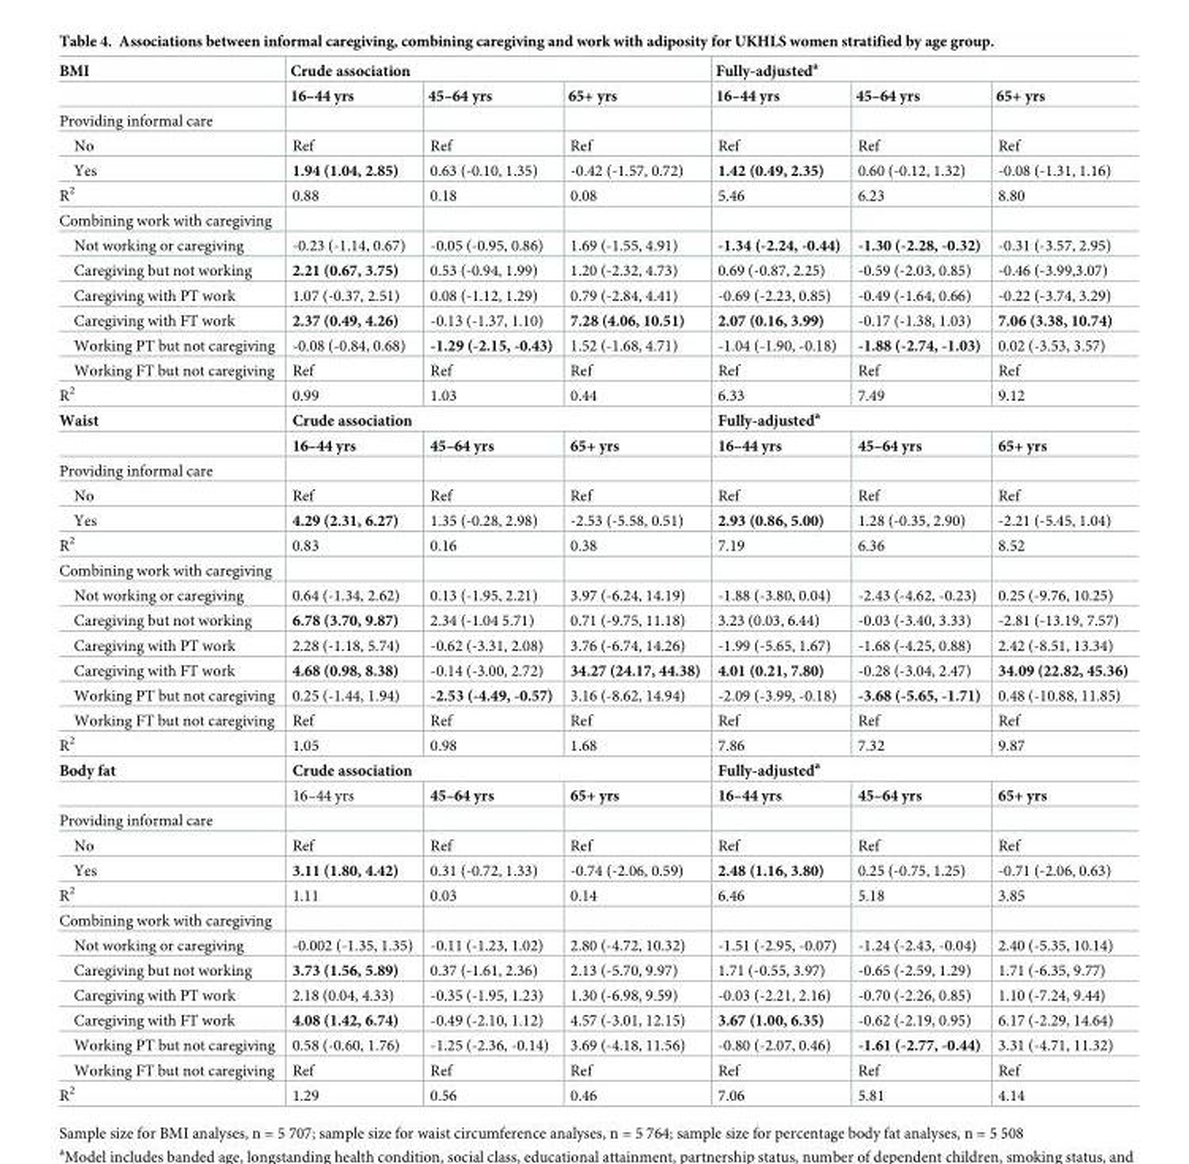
<table><thead><tr><td rowspan="2">BMI</td><td colspan="3">Crude association</td><td colspan="3">Fully-adjusted<sup>a</sup></td></tr><tr><td>16–44 yrs</td><td>45–64 yrs</td><td>65+ yrs</td><td>16–44 yrs</td><td>45–64 yrs</td><td>65+ yrs</td></tr></thead><tbody><tr><td colspan="7">Providing informal care</td></tr><tr><td>No</td><td>Ref</td><td>Ref</td><td>Ref</td><td>Ref</td><td>Ref</td><td>Ref</td></tr><tr><td>Yes</td><td>1.94 (1.04, 2.85)</td><td>0.63 (-0.10, 1.35)</td><td>-0.42 (-1.57, 0.72)</td><td>1.42 (0.49, 2.35)</td><td>0.60 (-0.12, 1.32)</td><td>-0.08 (-1.31, 1.16)</td></tr><tr><td>R<sup>2</sup></td><td>0.88</td><td>0.18</td><td>0.08</td><td>5.46</td><td>6.23</td><td>8.80</td></tr><tr><td colspan="7">Combining work with caregiving</td></tr><tr><td>Not working or caregiving</td><td>-0.23 (-1.14, 0.67)</td><td>-0.05 (-0.95, 0.86)</td><td>1.69 (-1.55, 4.91)</td><td>-1.34 (-2.24, -0.44)</td><td>-1.30 (-2.28, -0.32)</td><td>-0.31 (-3.57, 2.95)</td></tr><tr><td>Caregiving but not working</td><td>2.21 (0.67, 3.75)</td><td>0.53 (-0.94, 1.99)</td><td>1.20 (-2.32, 4.73)</td><td>0.69 (-0.87, 2.25)</td><td>-0.59 (-2.03, 0.85)</td><td>-0.46 (-3.99,3.07)</td></tr><tr><td>Caregiving with PT work</td><td>1.07 (-0.37, 2.51)</td><td>0.08 (-1.12, 1.29)</td><td>0.79 (-2.84, 4.41)</td><td>-0.69 (-2.23, 0.85)</td><td>-0.49 (-1.64, 0.66)</td><td>-0.22 (-3.74, 3.29)</td></tr><tr><td>Caregiving with FT work</td><td>2.37 (0.49, 4.26)</td><td>-0.13 (-1.37, 1.10)</td><td>7.28 (4.06, 10.51)</td><td>2.07 (0.16, 3.99)</td><td>-0.17 (-1.38, 1.03)</td><td>7.06 (3.38, 10.74)</td></tr><tr><td>Working PT but not caregiving</td><td>-0.08 (-0.84, 0.68)</td><td>-1.29 (-2.15, -0.43)</td><td>1.52 (-1.68, 4.71)</td><td>-1.04 (-1.90, -0.18)</td><td>-1.88 (-2.74, -1.03)</td><td>0.02 (-3.53, 3.57)</td></tr><tr><td>Working FT but not caregiving</td><td>Ref</td><td>Ref</td><td>Ref</td><td>Ref</td><td>Ref</td><td>Ref</td></tr><tr><td>R<sup>2</sup></td><td>0.99</td><td>1.03</td><td>0.44</td><td>6.33</td><td>7.49</td><td>9.12</td></tr><tr><td rowspan="2">Waist</td><td colspan="3">Crude association</td><td colspan="3">Fully-adjusted<sup>a</sup></td></tr><tr><td>16–44 yrs</td><td>45–64 yrs</td><td>65+ yrs</td><td>16–44 yrs</td><td>45–64 yrs</td><td>65+ yrs</td></tr><tr><td colspan="7">Providing informal care</td></tr><tr><td>No</td><td>Ref</td><td>Ref</td><td>Ref</td><td>Ref</td><td>Ref</td><td>Ref</td></tr><tr><td>Yes</td><td>4.29 (2.31, 6.27)</td><td>1.35 (-0.28, 2.98)</td><td>-2.53 (-5.58, 0.51)</td><td>2.93 (0.86, 5.00)</td><td>1.28 (-0.35, 2.90)</td><td>-2.21 (-5.45, 1.04)</td></tr><tr><td>R<sup>2</sup></td><td>0.83</td><td>0.16</td><td>0.38</td><td>7.19</td><td>6.36</td><td>8.52</td></tr><tr><td colspan="7">Combining work with caregiving</td></tr><tr><td>Not working or caregiving</td><td>0.64 (-1.34, 2.62)</td><td>0.13 (-1.95, 2.21)</td><td>3.97 (-6.24, 14.19)</td><td>-1.88 (-3.80, 0.04)</td><td>-2.43 (-4.62, -0.23)</td><td>0.25 (-9.76, 10.25)</td></tr><tr><td>Caregiving but not working</td><td>6.78 (3.70, 9.87)</td><td>2.34 (-1.04 5.71)</td><td>0.71 (-9.75, 11.18)</td><td>3.23 (0.03, 6.44)</td><td>-0.03 (-3.40, 3.33)</td><td>-2.81 (-13.19, 7.57)</td></tr><tr><td>Caregiving with PT work</td><td>2.28 (-1.18, 5.74)</td><td>-0.62 (-3.31, 2.08)</td><td>3.76 (-6.74, 14.26)</td><td>-1.99 (-5.65, 1.67)</td><td>-1.68 (-4.25, 0.88)</td><td>2.42 (-8.51, 13.34)</td></tr><tr><td>Caregiving with FT work</td><td>4.68 (0.98, 8.38)</td><td>-0.14 (-3.00, 2.72)</td><td>34.27 (24.17, 44.38)</td><td>4.01 (0.21, 7.80)</td><td>-0.28 (-3.04, 2.47)</td><td>34.09 (22.82, 45.36)</td></tr><tr><td>Working PT but not caregiving</td><td>0.25 (-1.44, 1.94)</td><td>-2.53 (-4.49, -0.57)</td><td>3.16 (-8.62, 14.94)</td><td>-2.09 (-3.99, -0.18)</td><td>-3.68 (-5.65, -1.71)</td><td>0.48 (-10.88, 11.85)</td></tr><tr><td>Working FT but not caregiving</td><td>Ref</td><td>Ref</td><td>Ref</td><td>Ref</td><td>Ref</td><td>Ref</td></tr><tr><td>R<sup>2</sup></td><td>1.05</td><td>0.98</td><td>1.68</td><td>7.86</td><td>7.32</td><td>9.87</td></tr><tr><td rowspan="2">Body fat</td><td colspan="3">Crude association</td><td colspan="3">Fully-adjusted<sup>a</sup></td></tr><tr><td>16–44 yrs</td><td>45–64 yrs</td><td>65+ yrs</td><td>16–44 yrs</td><td>45–64 yrs</td><td>65+ yrs</td></tr><tr><td colspan="7">Providing informal care</td></tr><tr><td>No</td><td>Ref</td><td>Ref</td><td>Ref</td><td>Ref</td><td>Ref</td><td>Ref</td></tr><tr><td>Yes</td><td>3.11 (1.80, 4.42)</td><td>0.31 (-0.72, 1.33)</td><td>-0.74 (-2.06, 0.59)</td><td>2.48 (1.16, 3.80)</td><td>0.25 (-0.75, 1.25)</td><td>-0.71 (-2.06, 0.63)</td></tr><tr><td>R<sup>2</sup></td><td>1.11</td><td>0.03</td><td>0.14</td><td>6.46</td><td>5.18</td><td>3.85</td></tr><tr><td colspan="7">Combining work with caregiving</td></tr><tr><td>Not working or caregiving</td><td>-0.002 (-1.35, 1.35)</td><td>-0.11 (-1.23, 1.02)</td><td>2.80 (-4.72, 10.32)</td><td>-1.51 (-2.95, -0.07)</td><td>-1.24 (-2.43, -0.04)</td><td>2.40 (-5.35, 10.14)</td></tr><tr><td>Caregiving but not working</td><td>3.73 (1.56, 5.89)</td><td>0.37 (-1.61, 2.36)</td><td>2.13 (-5.70, 9.97)</td><td>1.71 (-0.55, 3.97)</td><td>-0.65 (-2.59, 1.29)</td><td>1.71 (-6.35, 9.77)</td></tr><tr><td>Caregiving with PT work</td><td>2.18 (0.04, 4.33)</td><td>-0.35 (-1.95, 1.23)</td><td>1.30 (-6.98, 9.59)</td><td>-0.03 (-2.21, 2.16)</td><td>-0.70 (-2.26, 0.85)</td><td>1.10 (-7.24, 9.44)</td></tr><tr><td>Caregiving with FT work</td><td>4.08 (1.42, 6.74)</td><td>-0.49 (-2.10, 1.12)</td><td>4.57 (-3.01, 12.15)</td><td>3.67 (1.00, 6.35)</td><td>-0.62 (-2.19, 0.95)</td><td>6.17 (-2.29, 14.64)</td></tr><tr><td>Working PT but not caregiving</td><td>0.58 (-0.60, 1.76)</td><td>-1.25 (-2.36, -0.14)</td><td>3.69 (-4.18, 11.56)</td><td>-0.80 (-2.07, 0.46)</td><td>-1.61 (-2.77, -0.44)</td><td>3.31 (-4.71, 11.32)</td></tr><tr><td>Working FT but not caregiving</td><td>Ref</td><td>Ref</td><td>Ref</td><td>Ref</td><td>Ref</td><td>Ref</td></tr><tr><td>R<sup>2</sup></td><td>1.29</td><td>0.56</td><td>0.46</td><td>7.06</td><td>5.81</td><td>4.14</td></tr></tbody></table>